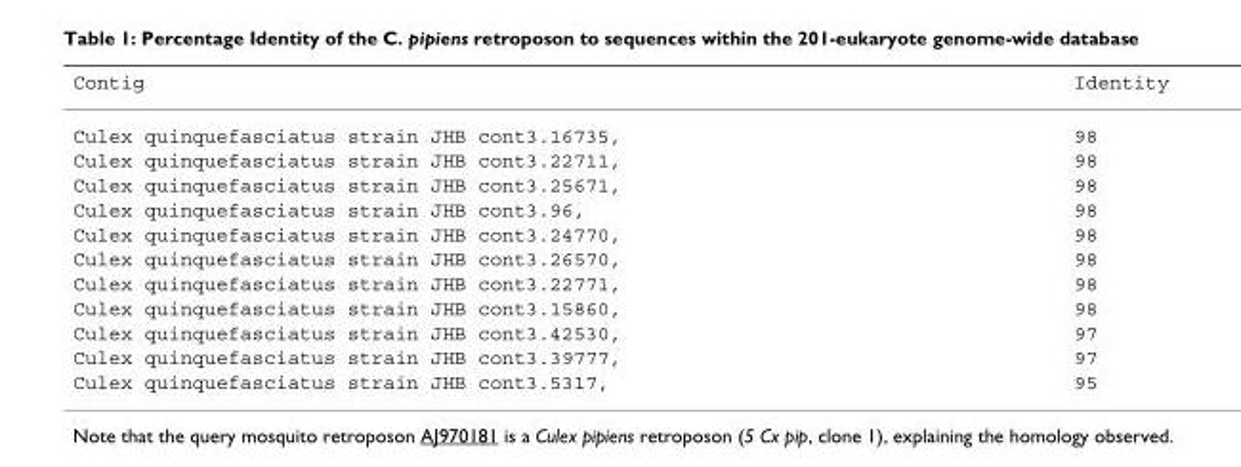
<table><thead><tr><td>Contig</td><td>Identity</td></tr></thead><tbody><tr><td>Culex quinquefasciatus strain JHB cont3.16735,</td><td>98</td></tr><tr><td>Culex quinquefasciatus strain JHB cont3.22711,</td><td>98</td></tr><tr><td>Culex quinquefasciatus strain JHB cont3.25671,</td><td>98</td></tr><tr><td>Culex quinquefasciatus strain JHB cont3.96,</td><td>98</td></tr><tr><td>Culex quinquefasciatus strain JHB cont3.24770,</td><td>98</td></tr><tr><td>Culex quinquefasciatus strain JHB cont3.26570,</td><td>98</td></tr><tr><td>Culex quinquefasciatus strain JHB cont3.22771,</td><td>98</td></tr><tr><td>Culex quinquefasciatus strain JHB cont3.15860,</td><td>98</td></tr><tr><td>Culex quinquefasciatus strain JHB cont3.42530,</td><td>97</td></tr><tr><td>Culex quinquefasciatus strain JHB cont3.39777,</td><td>97</td></tr><tr><td>Culex quinquefasciatus strain JHB cont3.5317,</td><td>95</td></tr></tbody></table>